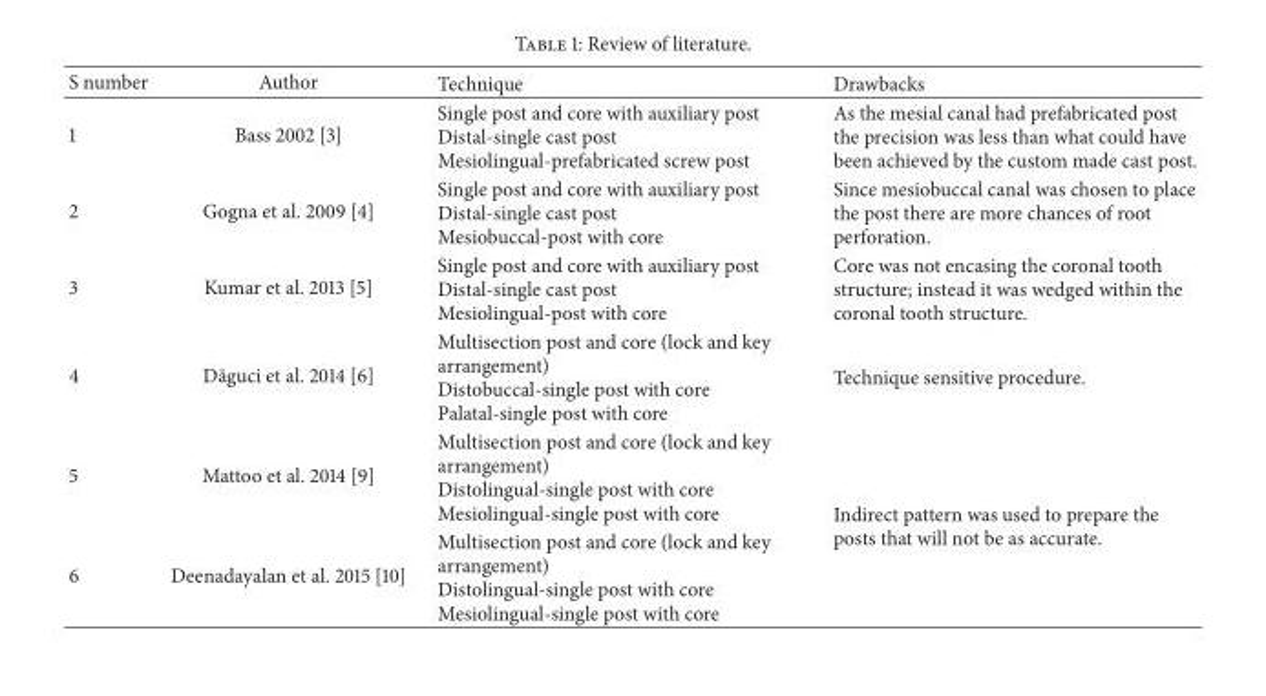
<table><thead><tr><td>S number</td><td>Author</td><td>Technique</td><td>Drawbacks</td></tr></thead><tbody><tr><td>1</td><td>Bass 2002 [3]</td><td>Single post and core with auxiliary post Distal-single cast post Mesiolingual-prefabricated screw post</td><td>As the mesial canal had prefabricated post the precision was less than what could have been achieved by the custom made cast post.</td></tr><tr><td>2</td><td>Gogna et al. 2009 [4]</td><td>Single post and core with auxiliary post Distal-single cast post Mesiobuccal-post with core</td><td>Since mesiobuccal canal was chosen to place the post there are more chances of root perforation.</td></tr><tr><td>3</td><td>Kumar et al. 2013 [5]</td><td>Single post and core with auxiliary post Distal-single cast post Mesiolingual-post with core</td><td>Core was not encasing the coronal tooth structure; instead it was wedged within the coronal tooth structure.</td></tr><tr><td>4</td><td>D˘aguci et al. 2014 [6]</td><td>Multisection post and core (lock and key arrangement) Distobuccal-single post with core Palatal-single post with core</td><td>Technique sensitive procedure.</td></tr><tr><td>5</td><td>Mattoo et al. 2014 [9]</td><td>Multisection post and core (lock and key arrangement) Distolingual-single post with core Mesiolingual-single post with core</td><td rowspan="2">Indirect pattern was used to prepare the posts that will not be as accurate.</td></tr><tr><td>6</td><td>Deenadayalan et al. 2015 [10]</td><td>Multisection post and core (lock and key arrangement) Distolingual-single post with core Mesiolingual-single post with core</td></tr></tbody></table>